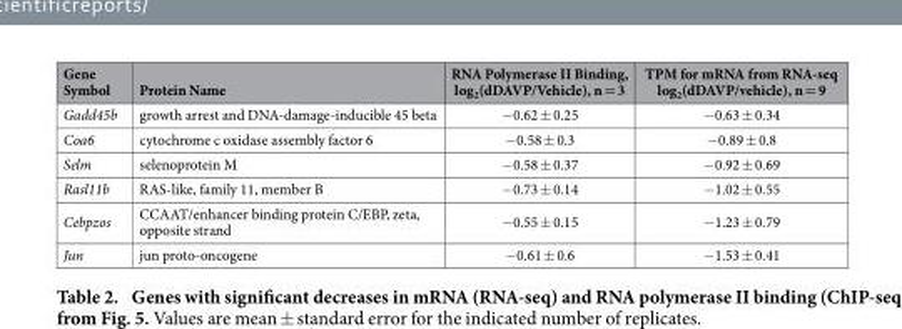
<table><thead><tr><td>Gene Symbol</td><td>Protein Name</td><td>RNA Polymerase II Binding, log<sub>2</sub>(dDAVP/Vehicle), n = 3</td><td>TPM for mRNA from RNA-seq log<sub>2</sub>(dDAVP/vehicle), n = 9</td></tr></thead><tbody><tr><td>Gadd45b</td><td>growth arrest and DNA-damage-inducible 45 beta</td><td>− 0.62 ± 0.25</td><td>− 0.63 ± 0.34</td></tr><tr><td>Coa6</td><td>cytochrome c oxidase assembly factor 6</td><td>− 0.58 ± 0.3</td><td>− 0.89 ± 0.8</td></tr><tr><td>Selm</td><td>selenoprotein M</td><td>− 0.58 ± 0.37</td><td>− 0.92 ± 0.69</td></tr><tr><td>Rasl11b</td><td>RAS-like, family 11, member B</td><td>− 0.73 ± 0.14</td><td>− 1.02 ± 0.55</td></tr><tr><td>Cebpzos</td><td>CCAAT/enhancer binding protein C/EBP, zeta, opposite strand</td><td>− 0.55 ± 0.15</td><td>− 1.23 ± 0.79</td></tr><tr><td>Jun</td><td>jun proto-oncogene</td><td>− 0.61 ± 0.6</td><td>− 1.53 ± 0.41</td></tr></tbody></table>